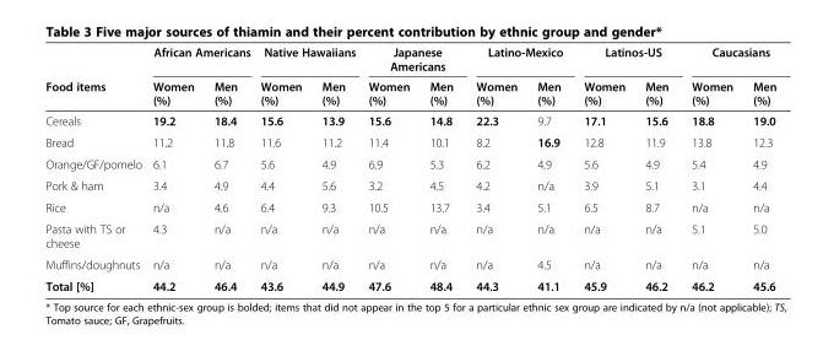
<table><thead><tr><td rowspan="2">Food items</td><td colspan="2">African Americans</td><td colspan="2">Native Hawaiians</td><td colspan="2">Japanese Americans</td><td colspan="2">Latino-Mexico</td><td colspan="2">Latinos-US</td><td colspan="2">Caucasians</td></tr><tr><td>Women (%)</td><td>Men (%)</td><td>Women (%)</td><td>Men (%)</td><td>Women (%)</td><td>Men (%)</td><td>Women (%)</td><td>Men (%)</td><td>Women (%)</td><td>Men (%)</td><td>Women (%)</td><td>Men (%)</td></tr></thead><tbody><tr><td>Cereals</td><td>19.2</td><td>18.4</td><td>15.6</td><td>13.9</td><td>15.6</td><td>14.8</td><td>22.3</td><td>9.7</td><td>17.1</td><td>15.6</td><td>18.8</td><td>19.0</td></tr><tr><td>Bread</td><td>11.2</td><td>11.8</td><td>11.6</td><td>11.2</td><td>11.4</td><td>10.1</td><td>8.2</td><td>16.9</td><td>12.8</td><td>11.9</td><td>13.8</td><td>12.3</td></tr><tr><td>Orange/GF/pomelo</td><td>6.1</td><td>6.7</td><td>5.6</td><td>4.9</td><td>6.9</td><td>5.3</td><td>6.2</td><td>4.9</td><td>5.6</td><td>4.9</td><td>5.4</td><td>4.9</td></tr><tr><td>Pork &amp; ham</td><td>3.4</td><td>4.9</td><td>4.4</td><td>5.6</td><td>3.2</td><td>4.5</td><td>4.2</td><td>n/a</td><td>3.9</td><td>5.1</td><td>3.1</td><td>4.4</td></tr><tr><td>Rice</td><td>n/a</td><td>4.6</td><td>6.4</td><td>9.3</td><td>10.5</td><td>13.7</td><td>3.4</td><td>5.1</td><td>6.5</td><td>8.7</td><td>n/a</td><td>n/a</td></tr><tr><td>Pasta with TS or cheese</td><td>4.3</td><td>n/a</td><td>n/a</td><td>n/a</td><td>n/a</td><td>n/a</td><td>n/a</td><td>n/a</td><td>n/a</td><td>n/a</td><td>5.1</td><td>5.0</td></tr><tr><td>Muffins/doughnuts</td><td>n/a</td><td>n/a</td><td>n/a</td><td>n/a</td><td>n/a</td><td>n/a</td><td>n/a</td><td>4.5</td><td>n/a</td><td>n/a</td><td>n/a</td><td>n/a</td></tr><tr><td>Total [%]</td><td>44.2</td><td>46.4</td><td>43.6</td><td>44.9</td><td>47.6</td><td>48.4</td><td>44.3</td><td>41.1</td><td>45.9</td><td>46.2</td><td>46.2</td><td>45.6</td></tr></tbody></table>